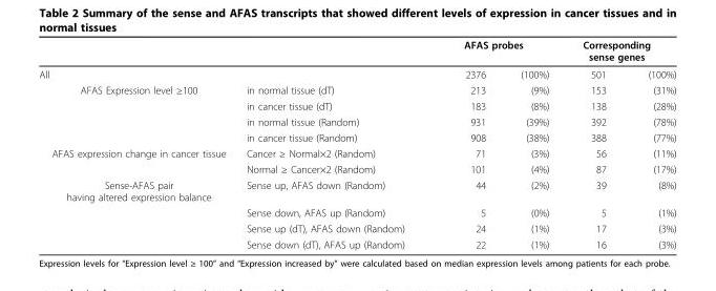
<table><thead><tr><td></td><td></td><td colspan="2">AFAS probes</td><td colspan="2">Corresponding sense genes</td></tr><tr><td colspan="2">All</td><td>2376</td><td>(100%)</td><td>501</td><td>(100%)</td></tr></thead><tbody><tr><td rowspan="4">AFAS Expression level ≥100</td><td>in normal tissue (dT)</td><td>213</td><td>(9%)</td><td>153</td><td>(31%)</td></tr><tr><td>in cancer tissue (dT)</td><td>183</td><td>(8%)</td><td>138</td><td>(28%)</td></tr><tr><td>in normal tissue (Random)</td><td>931</td><td>(39%)</td><td>392</td><td>(78%)</td></tr><tr><td>in cancer tissue (Random)</td><td>908</td><td>(38%)</td><td>388</td><td>(77%)</td></tr><tr><td rowspan="2">AFAS expression change in cancer tissue</td><td>Cancer ≥ Normal×2 (Random)</td><td>71</td><td>(3%)</td><td>56</td><td>(11%)</td></tr><tr><td>Normal ≥ Cancer×2 (Random)</td><td>101</td><td>(4%)</td><td>87</td><td>(17%)</td></tr><tr><td rowspan="4">Sense-AFAS pair having altered expression balance</td><td>Sense up, AFAS down (Random)</td><td>44</td><td>(2%)</td><td>39</td><td>(8%)</td></tr><tr><td>Sense down, AFAS up (Random)</td><td>5</td><td>(0%)</td><td>5</td><td>(1%)</td></tr><tr><td>Sense up (dT), AFAS down (Random)</td><td>24</td><td>(1%)</td><td>17</td><td>(3%)</td></tr><tr><td>Sense down (dT), AFAS up (Random)</td><td>22</td><td>(1%)</td><td>16</td><td>(3%)</td></tr></tbody></table>